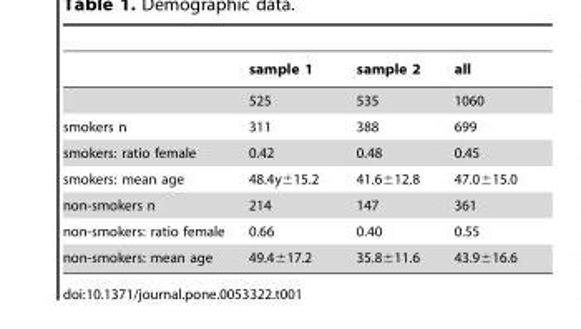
<table><thead><tr><td></td><td>sample 1</td><td>sample 2</td><td>all</td></tr></thead><tbody><tr><td></td><td>525</td><td>535</td><td>1060</td></tr><tr><td>smokers n</td><td>311</td><td>388</td><td>699</td></tr><tr><td>smokers: ratio female</td><td>0.42</td><td>0.48</td><td>0.45</td></tr><tr><td>smokers: mean age</td><td>48.4y±15.2</td><td>41.6±12.8</td><td>47.0±15.0</td></tr><tr><td>non-smokers n</td><td>214</td><td>147</td><td>361</td></tr><tr><td>non-smokers: ratio female</td><td>0.66</td><td>0.40</td><td>0.55</td></tr><tr><td>non-smokers: mean age</td><td>49.4±17.2</td><td>35.8±11.6</td><td>43.9±16.6</td></tr></tbody></table>